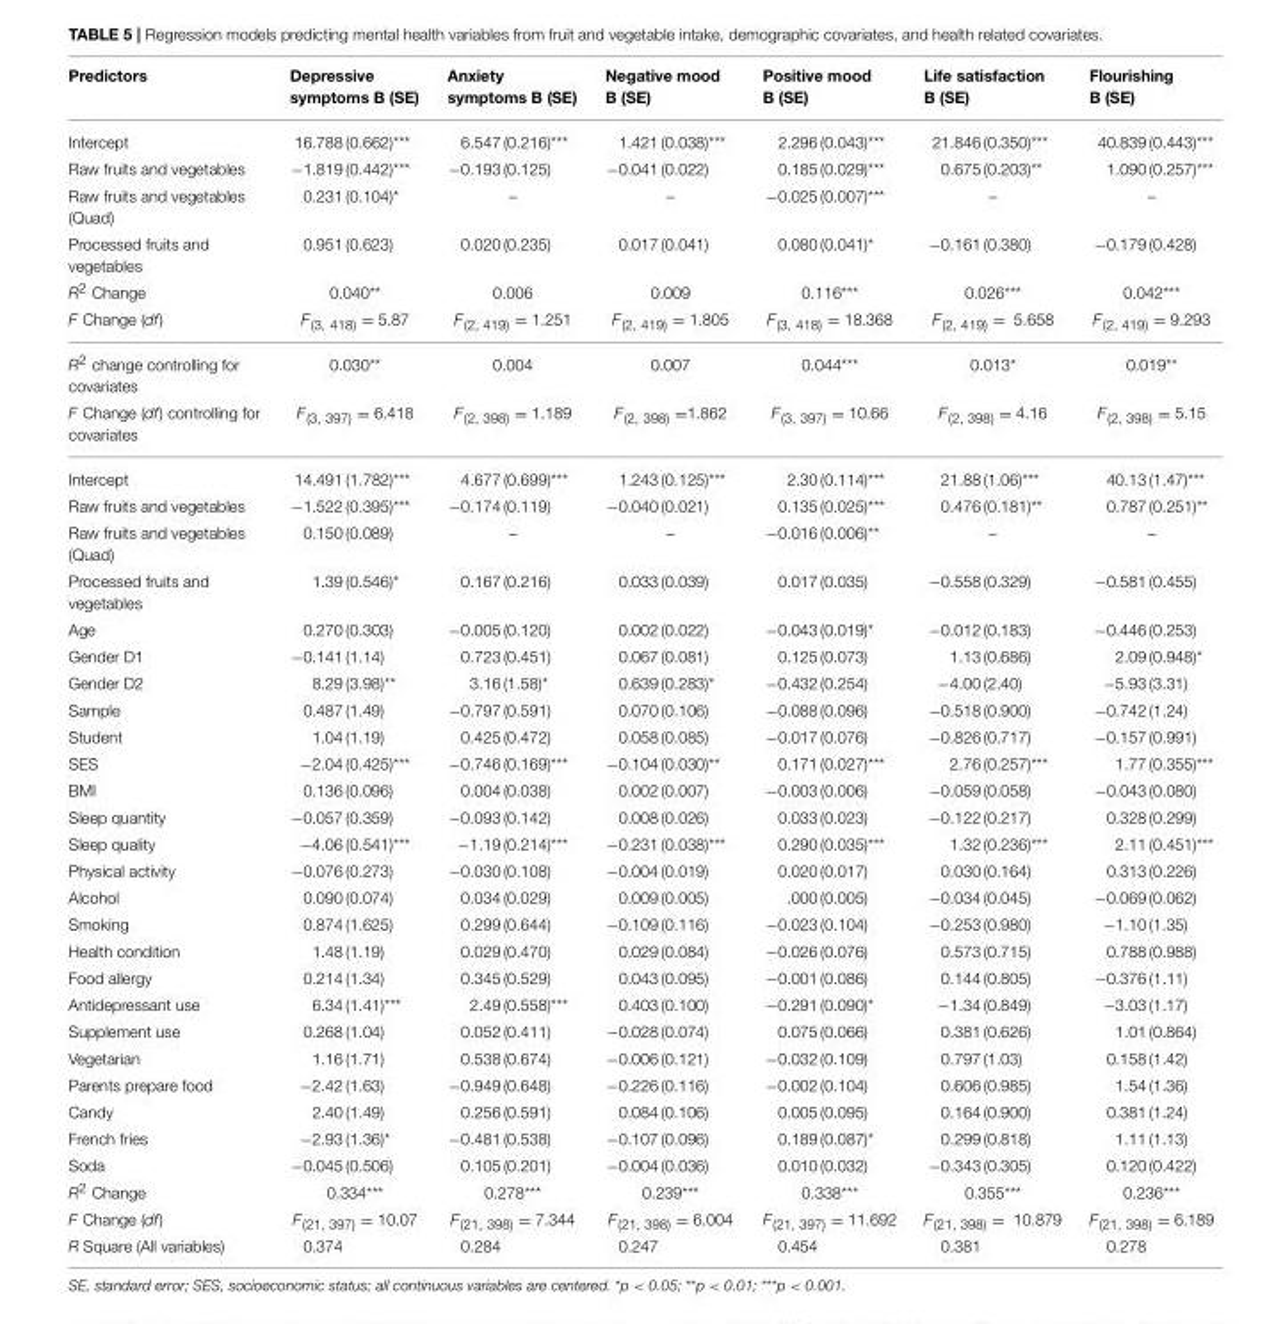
<table><thead><tr><td>Predictors</td><td>Depressive symptoms B (SE)</td><td>Anxiety symptoms B (SE)</td><td>Negative mood B (SE)</td><td>Positive mood B (SE)</td><td>Life satisfaction B (SE)</td><td>Flourishing B (SE)</td></tr></thead><tbody><tr><td>Intercept</td><td>16.788 (0.662)***</td><td>6.547 (0.216)***</td><td>1.421 (0.038)***</td><td>2.296 (0.043)***</td><td>21.846 (0.350)***</td><td>40.839 (0.443)***</td></tr><tr><td>Raw fruits and vegetables</td><td>−1.819 (0.442)***</td><td>−0.193 (0.125)</td><td>−0.041 (0.022)</td><td>0.185 (0.029)***</td><td>0.675 (0.203)**</td><td>1.090 (0.257)***</td></tr><tr><td>Raw fruits and vegetables (Quad)</td><td>0.231 (0.104)*</td><td>–</td><td>–</td><td>−0.025 (0.007)***</td><td>–</td><td>–</td></tr><tr><td>Processed fruits and vegetables</td><td>0.951 (0.623)</td><td>0.020 (0.235)</td><td>0.017 (0.041)</td><td>0.080 (0.041)*</td><td>−0.161 (0.380)</td><td>−0.179 (0.428)</td></tr><tr><td>R<sup>2</sup> Change</td><td>0.040**</td><td>0.006</td><td>0.009</td><td>0.116***</td><td>0.026***</td><td>0.042***</td></tr><tr><td>F Change (df)</td><td>F<sub>(3, 418)</sub> = 5.87</td><td>F<sub>(2, 419)</sub> = 1.251</td><td>F<sub>(2, 419)</sub> = 1.805</td><td>F<sub>(3, 418)</sub> = 18.368</td><td>F<sub>(2, 419)</sub> = 5.658</td><td>F<sub>(2, 419)</sub> = 9.293</td></tr><tr><td>R<sup>2</sup> change controlling for covariates</td><td>0.030**</td><td>0.004</td><td>0.007</td><td>0.044***</td><td>0.013*</td><td>0.019**</td></tr><tr><td>F Change (df) controlling for covariates</td><td>F<sub>(3, 397)</sub> = 6.418</td><td>F<sub>(2, 398)</sub> = 1.189</td><td>F<sub>(2, 398)</sub> =1.862</td><td>F<sub>(3, 397)</sub> = 10.66</td><td>F<sub>(2, 398)</sub> = 4.16</td><td>F<sub>(2, 398)</sub> = 5.15</td></tr><tr><td>Intercept</td><td>14.491 (1.782)***</td><td>4.677 (0.699)***</td><td>1.243 (0.125)***</td><td>2.30 (0.114)***</td><td>21.88 (1.06)***</td><td>40.13 (1.47)***</td></tr><tr><td>Raw fruits and vegetables</td><td>−1.522 (0.395)***</td><td>−0.174 (0.119)</td><td>−0.040 (0.021)</td><td>0.135 (0.025)***</td><td>0.476 (0.181)**</td><td>0.787 (0.251)**</td></tr><tr><td>Raw fruits and vegetables (Quad)</td><td>0.150 (0.089)</td><td>–</td><td>–</td><td>−0.016 (0.006)**</td><td>–</td><td>–</td></tr><tr><td>Processed fruits and vegetables</td><td>1.39 (0.546)*</td><td>0.167 (0.216)</td><td>0.033 (0.039)</td><td>0.017 (0.035)</td><td>−0.558 (0.329)</td><td>−0.581 (0.455)</td></tr><tr><td>Age</td><td>0.270 (0.303)</td><td>−0.005 (0.120)</td><td>0.002 (0.022)</td><td>−0.043 (0.019)*</td><td>−0.012 (0.183)</td><td>−0.446 (0.253)</td></tr><tr><td>Gender D1</td><td>−0.141 (1.14)</td><td>0.723 (0.451)</td><td>0.067 (0.081)</td><td>0.125 (0.073)</td><td>1.13 (0.686)</td><td>2.09 (0.948)*</td></tr><tr><td>Gender D2</td><td>8.29 (3.98)**</td><td>3.16 (1.58)*</td><td>0.639 (0.283)*</td><td>−0.432 (0.254)</td><td>−4.00 (2.40)</td><td>−5.93 (3.31)</td></tr><tr><td>Sample</td><td>0.487 (1.49)</td><td>−0.797 (0.591)</td><td>0.070 (0.106)</td><td>−0.088 (0.096)</td><td>−0.518 (0.900)</td><td>−0.742 (1.24)</td></tr><tr><td>Student</td><td>1.04 (1.19)</td><td>0.425 (0.472)</td><td>0.058 (0.085)</td><td>−0.017 (0.076)</td><td>−0.826 (0.717)</td><td>−0.157 (0.991)</td></tr><tr><td>SES</td><td>−2.04 (0.425)***</td><td>−0.746 (0.169)***</td><td>−0.104 (0.030)**</td><td>0.171 (0.027)***</td><td>2.76 (0.257)***</td><td>1.77 (0.355)***</td></tr><tr><td>BMI</td><td>0.136 (0.096)</td><td>0.004 (0.038)</td><td>0.002 (0.007)</td><td>−0.003 (0.006)</td><td>−0.059 (0.058)</td><td>−0.043 (0.080)</td></tr><tr><td>Sleep quantity</td><td>−0.057 (0.359)</td><td>−0.093 (0.142)</td><td>0.008 (0.026)</td><td>0.033 (0.023)</td><td>−0.122 (0.217)</td><td>0.328 (0.299)</td></tr><tr><td>Sleep quality</td><td>−4.06 (0.541)***</td><td>−1.19 (0.214)***</td><td>−0.231 (0.038)***</td><td>0.290 (0.035)***</td><td>1.32 (0.236)***</td><td>2.11 (0.451)***</td></tr><tr><td>Physical activity</td><td>−0.076 (0.273)</td><td>−0.030 (0.108)</td><td>−0.004 (0.019)</td><td>0.020 (0.017)</td><td>0.030 (0.164)</td><td>0.313 (0.226)</td></tr><tr><td>Alcohol</td><td>0.090 (0.074)</td><td>0.034 (0.029)</td><td>0.009 (0.005)</td><td>.000 (0.005)</td><td>−0.034 (0.045)</td><td>−0.069 (0.062)</td></tr><tr><td>Smoking</td><td>0.874 (1.625)</td><td>0.299 (0.644)</td><td>−0.109 (0.116)</td><td>−0.023 (0.104)</td><td>−0.253 (0.980)</td><td>−1.10 (1.35)</td></tr><tr><td>Health condition</td><td>1.48 (1.19)</td><td>0.029 (0.470)</td><td>0.029 (0.084)</td><td>−0.026 (0.076)</td><td>0.573 (0.715)</td><td>0.788 (0.988)</td></tr><tr><td>Food allergy</td><td>0.214 (1.34)</td><td>0.345 (0.529)</td><td>0.043 (0.095)</td><td>−0.001 (0.086)</td><td>0.144 (0.805)</td><td>−0.376 (1.11)</td></tr><tr><td>Antidepressant use</td><td>6.34 (1.41)***</td><td>2.49 (0.558)***</td><td>0.403 (0.100)</td><td>−0.291 (0.090)*</td><td>−1.34 (0.849)</td><td>−3.03 (1.17)</td></tr><tr><td>Supplement use</td><td>0.268 (1.04)</td><td>0.052 (0.411)</td><td>−0.028 (0.074)</td><td>0.075 (0.066)</td><td>0.381 (0.626)</td><td>1.01 (0.864)</td></tr><tr><td>Vegetarian</td><td>1.16 (1.71)</td><td>0.538 (0.674)</td><td>−0.006 (0.121)</td><td>−0.032 (0.109)</td><td>0.797 (1.03)</td><td>0.158 (1.42)</td></tr><tr><td>Parents prepare food</td><td>−2.42 (1.63)</td><td>−0.949 (0.648)</td><td>−0.226 (0.116)</td><td>−0.002 (0.104)</td><td>0.606 (0.985)</td><td>1.54 (1.36)</td></tr><tr><td>Candy</td><td>2.40 (1.49)</td><td>0.256 (0.591)</td><td>0.084 (0.106)</td><td>0.005 (0.095)</td><td>0.164 (0.900)</td><td>0.381 (1.24)</td></tr><tr><td>French fries</td><td>−2.93 (1.36)*</td><td>−0.481 (0.538)</td><td>−0.107 (0.096)</td><td>0.189 (0.087)*</td><td>0.299 (0.818)</td><td>1.11 (1.13)</td></tr><tr><td>Soda</td><td>−0.045 (0.506)</td><td>0.105 (0.201)</td><td>−0.004 (0.036)</td><td>0.010 (0.032)</td><td>−0.343 (0.305)</td><td>0.120 (0.422)</td></tr><tr><td>R<sup>2</sup> Change</td><td>0.334***</td><td>0.278***</td><td>0.239***</td><td>0.338***</td><td>0.355***</td><td>0.236***</td></tr><tr><td>F Change (df)</td><td>F<sub>(21, 397)</sub> = 10.07</td><td>F<sub>(21, 398)</sub> = 7.344</td><td>F<sub>(21, 398)</sub> = 6.004</td><td>F<sub>(21, 397)</sub> = 11.692</td><td>F<sub>(21, 398)</sub> = 10.879</td><td>F<sub>(21, 398)</sub> = 6.189</td></tr><tr><td>R Square (All variables)</td><td>0.374</td><td>0.284</td><td>0.247</td><td>0.454</td><td>0.381</td><td>0.278</td></tr></tbody></table>